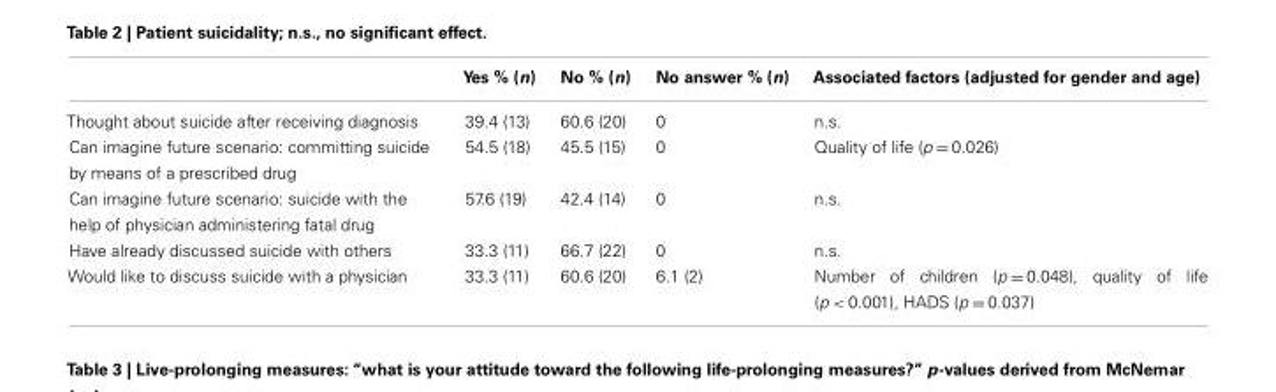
<table><thead><tr><td></td><td>Yes % (n)</td><td>No % (n)</td><td>No answer % (n)</td><td>Associated factors (adjusted for gender and age)</td></tr></thead><tbody><tr><td>Thought about suicide after receiving diagnosis</td><td>39.4 (13)</td><td>60.6 (20)</td><td>0</td><td>n.s.</td></tr><tr><td>Can imagine future scenario: committing suicide by means of a prescribed drug</td><td>54.5 (18)</td><td>45.5 (15)</td><td>0</td><td>Quality of life (p = 0.026)</td></tr><tr><td>Can imagine future scenario: suicide with the help of physician administering fatal drug</td><td>57.6 (19)</td><td>42.4 (14)</td><td>0</td><td>n.s.</td></tr><tr><td>Have already discussed suicide with others</td><td>33.3 (11)</td><td>66.7 (22)</td><td>0</td><td>n.s.</td></tr><tr><td>Would like to discuss suicide with a physician</td><td>33.3 (11)</td><td>60.6 (20)</td><td>6.1 (2)</td><td>Number of children (p = 0.048), quality of life (p &lt; 0.001), HADS (p = 0.037)</td></tr></tbody></table>